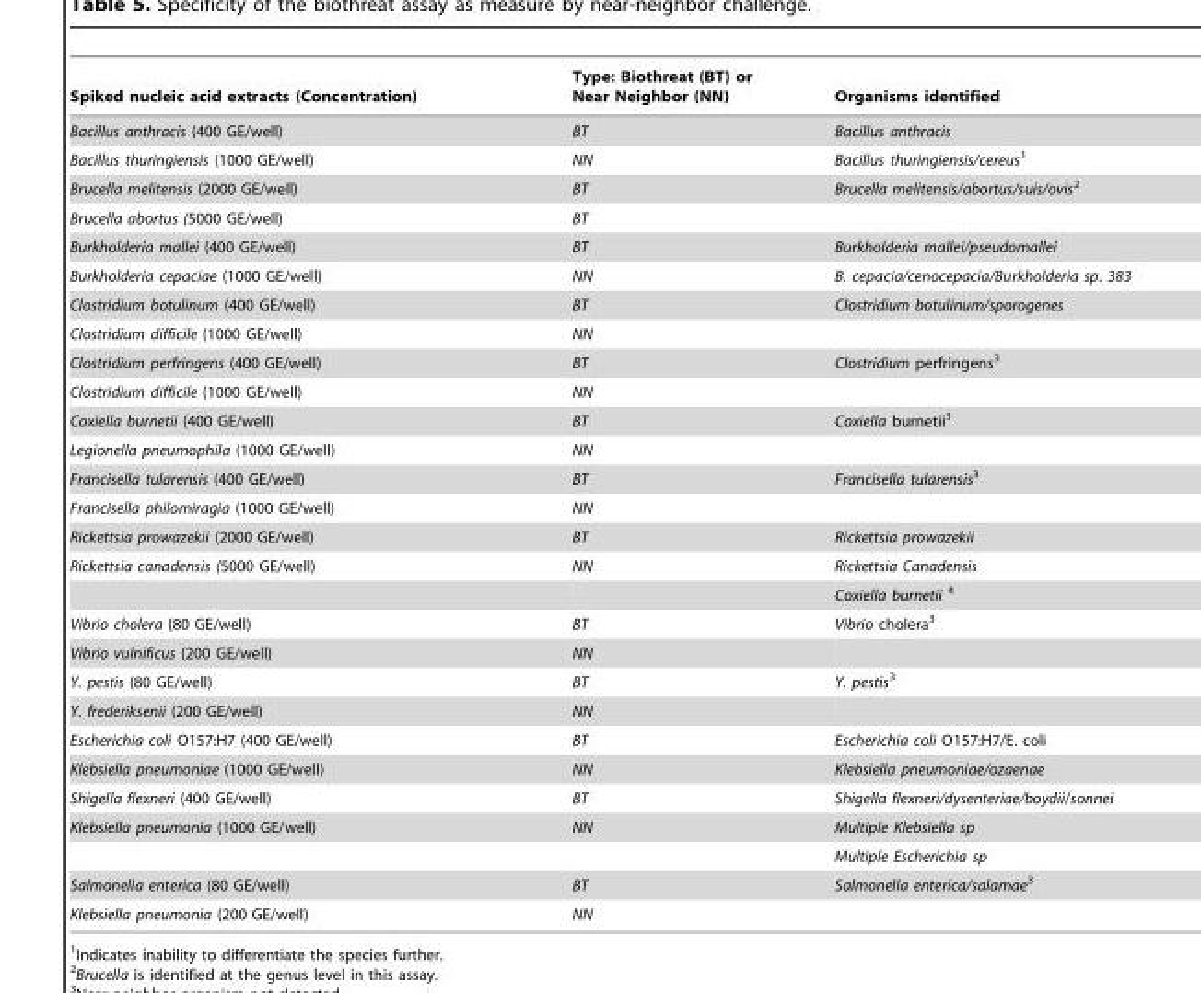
<table><thead><tr><td>Spiked nucleic acid extracts (Concentration)</td><td>Type: Biothreat (BT) or Near Neighbor (NN)</td><td>Organisms identified</td></tr></thead><tbody><tr><td>Bacillus anthracis (400 GE/well)</td><td>BT</td><td>Bacillus anthracis</td></tr><tr><td>Bacillus thuringiensis (1000 GE/well)</td><td>NN</td><td>Bacillus thuringiensis/cereus1</td></tr><tr><td>Brucella melitensis (2000 GE/well)</td><td>BT</td><td>Brucella melitensis/abortus/suis/ovis2</td></tr><tr><td>Brucella abortus (5000 GE/well)</td><td>BT</td><td></td></tr><tr><td>Burkholderia mallei (400 GE/well)</td><td>BT</td><td>Burkholderia mallei/pseudomallei</td></tr><tr><td>Burkholderia cepaciae (1000 GE/well)</td><td>NN</td><td>B. cepacia/cenocepacia/Burkholderia sp. 383</td></tr><tr><td>Clostridium botulinum (400 GE/well)</td><td>BT</td><td>Clostridium botulinum/sporogenes</td></tr><tr><td>Clostridium difficile (1000 GE/well)</td><td>NN</td><td></td></tr><tr><td>Clostridium perfringens (400 GE/well)</td><td>BT</td><td>Clostridium perfringens<sup>3</sup></td></tr><tr><td>Clostridium difficile (1000 GE/well)</td><td>NN</td><td></td></tr><tr><td>Coxiella burnetii (400 GE/well)</td><td>BT</td><td>Coxiella burnetii<sup>3</sup></td></tr><tr><td>Legionella pneumophila (1000 GE/well)</td><td>NN</td><td></td></tr><tr><td>Francisella tularensis (400 GE/well)</td><td>BT</td><td>Francisella tularensis3</td></tr><tr><td>Francisella philomiragia (1000 GE/well)</td><td>NN</td><td></td></tr><tr><td>Rickettsia prowazekii (2000 GE/well)</td><td>BT</td><td>Rickettsia prowazekii</td></tr><tr><td rowspan="2">Rickettsia canadensis (5000 GE/well)</td><td>NN</td><td>Rickettsia Canadensis</td></tr><tr><td></td><td>Coxiella burnetii 4</td></tr><tr><td>Vibrio cholera (80 GE/well)</td><td>BT</td><td>Vibrio cholera<sup>3</sup></td></tr><tr><td>Vibrio vulnificus (200 GE/well)</td><td>NN</td><td></td></tr><tr><td>Y. pestis (80 GE/well)</td><td>BT</td><td>Y. pestis3</td></tr><tr><td>Y. frederiksenii (200 GE/well)</td><td>NN</td><td></td></tr><tr><td>Escherichia coli O157:H7 (400 GE/well)</td><td>BT</td><td>Escherichia coli O157:H7/E. coli</td></tr><tr><td>Klebsiella pneumoniae (1000 GE/well)</td><td>NN</td><td>Klebsiella pneumoniae/ozaenae</td></tr><tr><td>Shigella flexneri (400 GE/well)</td><td>BT</td><td>Shigella flexneri/dysenteriae/boydii/sonnei</td></tr><tr><td rowspan="2">Klebsiella pneumonia (1000 GE/well)</td><td>NN</td><td>Multiple Klebsiella sp</td></tr><tr><td></td><td>Multiple Escherichia sp</td></tr><tr><td>Salmonella enterica (80 GE/well)</td><td>BT</td><td>Salmonella enterica/salamae3</td></tr><tr><td>Klebsiella pneumonia (200 GE/well)</td><td>NN</td><td></td></tr></tbody></table>